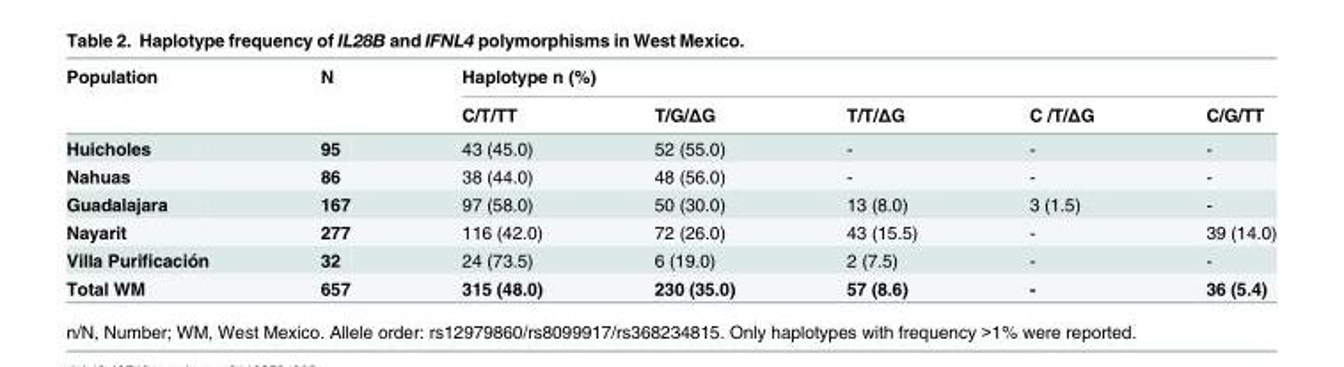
<table><thead><tr><td rowspan="2">Population</td><td rowspan="2">N</td><td colspan="5">Haplotype n (%)</td></tr><tr><td>C/T/TT</td><td>T/G/ΔG</td><td>T/T/ΔG</td><td>C /T/ΔG</td><td>C/G/TT</td></tr></thead><tbody><tr><td>Huicholes</td><td>95</td><td>43 (45.0)</td><td>52 (55.0)</td><td>-</td><td>-</td><td>-</td></tr><tr><td>Nahuas</td><td>86</td><td>38 (44.0)</td><td>48 (56.0)</td><td>-</td><td>-</td><td>-</td></tr><tr><td>Guadalajara</td><td>167</td><td>97 (58.0)</td><td>50 (30.0)</td><td>13 (8.0)</td><td>3 (1.5)</td><td>-</td></tr><tr><td>Nayarit</td><td>277</td><td>116 (42.0)</td><td>72 (26.0)</td><td>43 (15.5)</td><td>-</td><td>39 (14.0)</td></tr><tr><td>Villa Purificación</td><td>32</td><td>24 (73.5)</td><td>6 (19.0)</td><td>2 (7.5)</td><td>-</td><td>-</td></tr><tr><td>Total WM</td><td>657</td><td>315 (48.0)</td><td>230 (35.0)</td><td>57 (8.6)</td><td>-</td><td>36 (5.4)</td></tr></tbody></table>